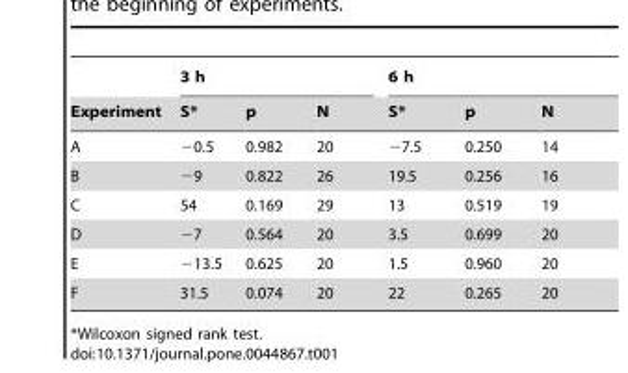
<table><thead><tr><td rowspan="2">Experiment</td><td colspan="3">3 h</td><td colspan="3">6 h</td></tr><tr><td>S*</td><td>p</td><td>N</td><td>S*</td><td>p</td><td>N</td></tr></thead><tbody><tr><td>A</td><td>−0.5</td><td>0.982</td><td>20</td><td>−7.5</td><td>0.250</td><td>14</td></tr><tr><td>B</td><td>−9</td><td>0.822</td><td>26</td><td>19.5</td><td>0.256</td><td>16</td></tr><tr><td>C</td><td>54</td><td>0.169</td><td>29</td><td>13</td><td>0.519</td><td>19</td></tr><tr><td>D</td><td>−7</td><td>0.564</td><td>20</td><td>3.5</td><td>0.699</td><td>20</td></tr><tr><td>E</td><td>−13.5</td><td>0.625</td><td>20</td><td>1.5</td><td>0.960</td><td>20</td></tr><tr><td>F</td><td>31.5</td><td>0.074</td><td>20</td><td>22</td><td>0.265</td><td>20</td></tr></tbody></table>